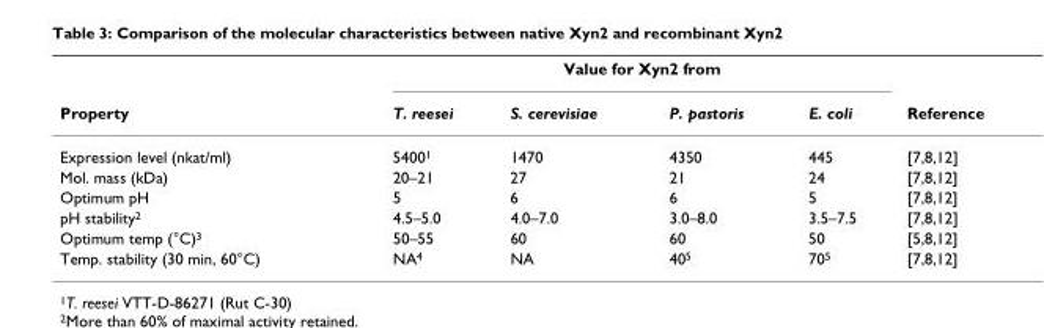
<table><thead><tr><td rowspan="2">Property</td><td colspan="4">Value for Xyn2 from</td><td rowspan="2">Reference</td></tr><tr><td>T. reesei</td><td>S. cerevisiae</td><td>P. pastoris</td><td>E. coli</td></tr></thead><tbody><tr><td>Expression level (nkat/ml)</td><td>5400<sup>1</sup></td><td>1470</td><td>4350</td><td>445</td><td>[7,8,12]</td></tr><tr><td>Mol. mass (kDa)</td><td>20–21</td><td>27</td><td>21</td><td>24</td><td>[7,8,12]</td></tr><tr><td>Optimum pH</td><td>5</td><td>6</td><td>6</td><td>5</td><td>[7,8,12]</td></tr><tr><td>pH stability<sup>2</sup></td><td>4.5–5.0</td><td>4.0–7.0</td><td>3.0–8.0</td><td>3.5–7.5</td><td>[7,8,12]</td></tr><tr><td>Optimum temp (°C)<sup>3</sup></td><td>50–55</td><td>60</td><td>60</td><td>50</td><td>[5,8,12]</td></tr><tr><td>Temp. stability (30 min, 60°C)</td><td>NA<sup>4</sup></td><td>NA</td><td>40<sup>5</sup></td><td>70<sup>5</sup></td><td>[7,8,12]</td></tr></tbody></table>